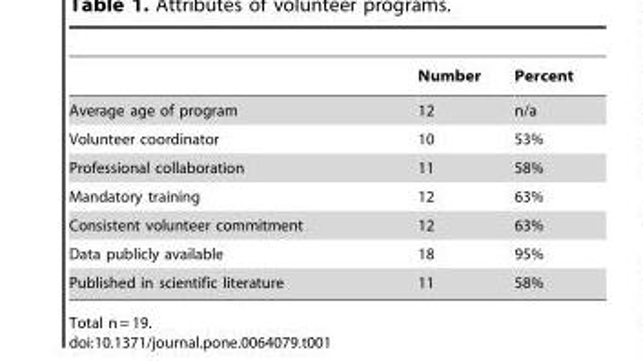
<table><thead><tr><td></td><td>Number</td><td>Percent</td></tr></thead><tbody><tr><td>Average age of program</td><td>12</td><td>n/a</td></tr><tr><td>Volunteer coordinator</td><td>10</td><td>53%</td></tr><tr><td>Professional collaboration</td><td>11</td><td>58%</td></tr><tr><td>Mandatory training</td><td>12</td><td>63%</td></tr><tr><td>Consistent volunteer commitment</td><td>12</td><td>63%</td></tr><tr><td>Data publicly available</td><td>18</td><td>95%</td></tr><tr><td>Published in scientific literature</td><td>11</td><td>58%</td></tr></tbody></table>